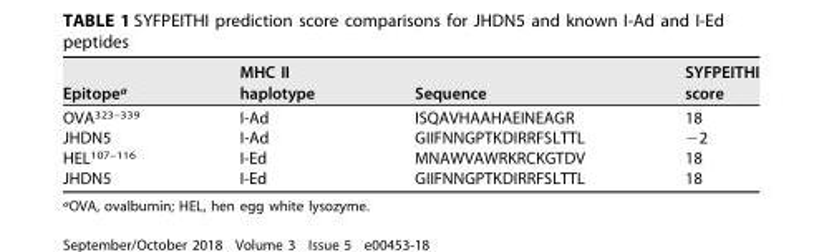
<table><thead><tr><td>Epitope<sup>a</sup></td><td>MHC II haplotype</td><td>Sequence</td><td>SYFPEITHI score</td></tr></thead><tbody><tr><td>OVA<sup>323–339</sup></td><td>I-Ad</td><td>ISQAVHAAHAEINEAGR</td><td>18</td></tr><tr><td>JHDN5</td><td>I-Ad</td><td>GIIFNNGPTKDIRRFSLTTL</td><td>−2</td></tr><tr><td>HEL<sup>107–116</sup></td><td>I-Ed</td><td>MNAWVAWRKRCKGTDV</td><td>18</td></tr><tr><td>JHDN5</td><td>I-Ed</td><td>GIIFNNGPTKDIRRFSLTTL</td><td>18</td></tr></tbody></table>